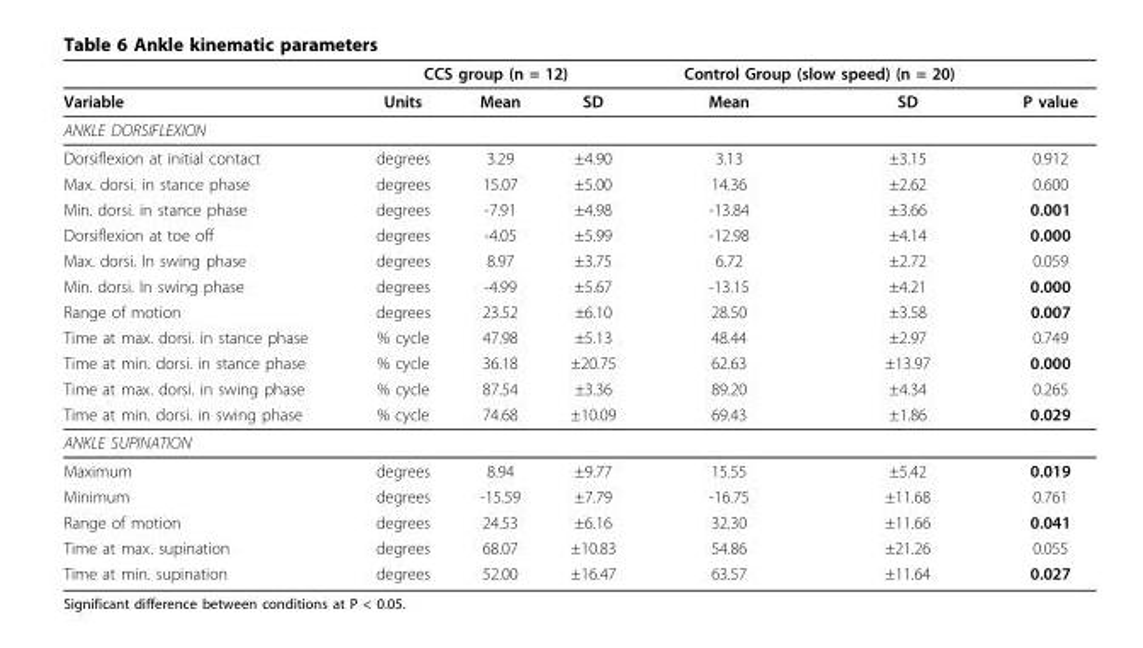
<table><thead><tr><td rowspan="2">Variable</td><td colspan="3">CCS group (n = 12)</td><td colspan="2">Control Group (slow speed) (n = 20)</td><td rowspan="2">P value</td></tr><tr><td>Units</td><td>Mean</td><td>SD</td><td>Mean</td><td>SD</td></tr></thead><tbody><tr><td colspan="7">ANKLE DORSIFLEXION</td></tr><tr><td>Dorsiflexion at initial contact</td><td>degrees</td><td>3.29</td><td>±4.90</td><td>3.13</td><td>±3.15</td><td>0.912</td></tr><tr><td>Max. dorsi. in stance phase</td><td>degrees</td><td>15.07</td><td>±5.00</td><td>14.36</td><td>±2.62</td><td>0.600</td></tr><tr><td>Min. dorsi. in stance phase</td><td>degrees</td><td>-7.91</td><td>±4.98</td><td>-13.84</td><td>±3.66</td><td>0.001</td></tr><tr><td>Dorsiflexion at toe off</td><td>degrees</td><td>-4.05</td><td>±5.99</td><td>-12.98</td><td>±4.14</td><td>0.000</td></tr><tr><td>Max. dorsi. In swing phase</td><td>degrees</td><td>8.97</td><td>±3.75</td><td>6.72</td><td>±2.72</td><td>0.059</td></tr><tr><td>Min. dorsi. In swing phase</td><td>degrees</td><td>-4.99</td><td>±5.67</td><td>-13.15</td><td>±4.21</td><td>0.000</td></tr><tr><td>Range of motion</td><td>degrees</td><td>23.52</td><td>±6.10</td><td>28.50</td><td>±3.58</td><td>0.007</td></tr><tr><td>Time at max. dorsi. in stance phase</td><td>% cycle</td><td>47.98</td><td>±5.13</td><td>48.44</td><td>±2.97</td><td>0.749</td></tr><tr><td>Time at min. dorsi. in stance phase</td><td>% cycle</td><td>36.18</td><td>±20.75</td><td>62.63</td><td>±13.97</td><td>0.000</td></tr><tr><td>Time at max. dorsi. in swing phase</td><td>% cycle</td><td>87.54</td><td>±3.36</td><td>89.20</td><td>±4.34</td><td>0.265</td></tr><tr><td>Time at min. dorsi. in swing phase</td><td>% cycle</td><td>74.68</td><td>±10.09</td><td>69.43</td><td>±1.86</td><td>0.029</td></tr><tr><td colspan="7">ANKLE SUPINATION</td></tr><tr><td>Maximum</td><td>degrees</td><td>8.94</td><td>±9.77</td><td>15.55</td><td>±5.42</td><td>0.019</td></tr><tr><td>Minimum</td><td>degrees</td><td>-15.59</td><td>±7.79</td><td>-16.75</td><td>±11.68</td><td>0.761</td></tr><tr><td>Range of motion</td><td>degrees</td><td>24.53</td><td>±6.16</td><td>32.30</td><td>±11.66</td><td>0.041</td></tr><tr><td>Time at max. supination</td><td>degrees</td><td>68.07</td><td>±10.83</td><td>54.86</td><td>±21.26</td><td>0.055</td></tr><tr><td>Time at min. supination</td><td>degrees</td><td>52.00</td><td>±16.47</td><td>63.57</td><td>±11.64</td><td>0.027</td></tr></tbody></table>